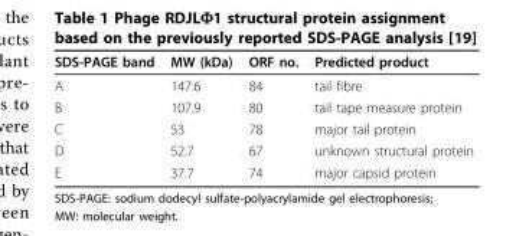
<table><thead><tr><td>SDS-PAGE band</td><td>MW (kDa)</td><td>ORF no.</td><td>Predicted product</td></tr></thead><tbody><tr><td>A</td><td>147.6</td><td>84</td><td>tail fibre</td></tr><tr><td>B</td><td>107.9</td><td>80</td><td>tail tape measure protein</td></tr><tr><td>C</td><td>53</td><td>78</td><td>major tail protein</td></tr><tr><td>D</td><td>52.7</td><td>67</td><td>unknown structural protein</td></tr><tr><td>E</td><td>37.7</td><td>74</td><td>major capsid protein</td></tr></tbody></table>